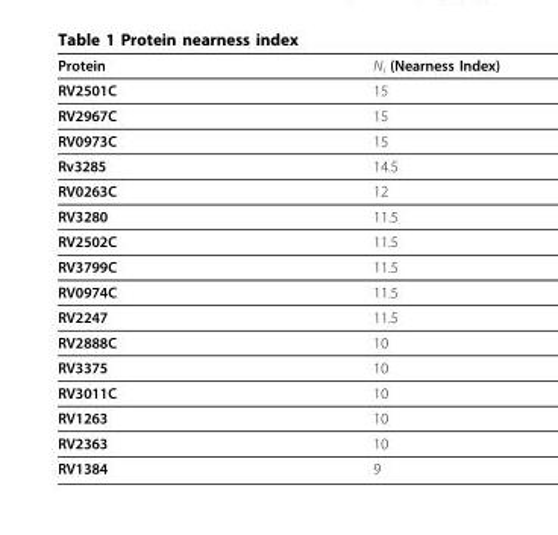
<table><thead><tr><td>Protein</td><td>N<sub>i</sub> (Nearness Index)</td></tr></thead><tbody><tr><td>RV2501C</td><td>15</td></tr><tr><td>RV2967C</td><td>15</td></tr><tr><td>RV0973C</td><td>15</td></tr><tr><td>Rv3285</td><td>14.5</td></tr><tr><td>RV0263C</td><td>12</td></tr><tr><td>RV3280</td><td>11.5</td></tr><tr><td>RV2502C</td><td>11.5</td></tr><tr><td>RV3799C</td><td>11.5</td></tr><tr><td>RV0974C</td><td>11.5</td></tr><tr><td>RV2247</td><td>11.5</td></tr><tr><td>RV2888C</td><td>10</td></tr><tr><td>RV3375</td><td>10</td></tr><tr><td>RV3011C</td><td>10</td></tr><tr><td>RV1263</td><td>10</td></tr><tr><td>RV2363</td><td>10</td></tr><tr><td>RV1384</td><td>9</td></tr></tbody></table>